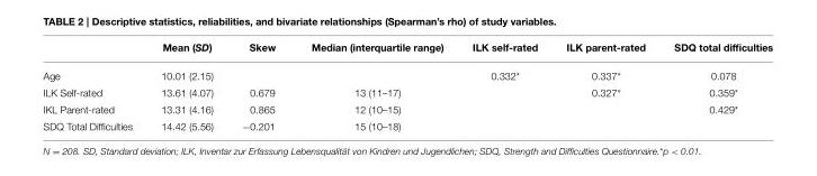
<table><thead><tr><td></td><td>Mean (SD)</td><td>Skew</td><td>Median (interquartile range)</td><td>ILK self-rated</td><td>ILK parent-rated</td><td>SDQ total difficulties</td></tr></thead><tbody><tr><td>Age</td><td>10.01 (2.15)</td><td></td><td></td><td>0.332*</td><td>0.337*</td><td>0.078</td></tr><tr><td>ILK Self-rated</td><td>13.61 (4.07)</td><td>0.679</td><td>13 (11–17)</td><td></td><td>0.327*</td><td>0.359*</td></tr><tr><td>IKL Parent-rated</td><td>13.31 (4.16)</td><td>0.865</td><td>12 (10–15)</td><td></td><td></td><td>0.429*</td></tr><tr><td>SDQ Total Difficulties</td><td>14.42 (5.56)</td><td>−0.201</td><td>15 (10–18)</td><td></td><td></td><td></td></tr></tbody></table>